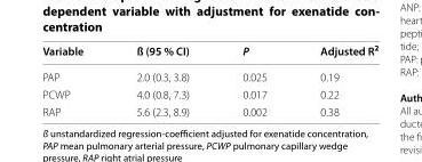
<table><thead><tr><td>Variable</td><td>ß (95 % CI)</td><td>P</td><td>Adjusted R<sup>2</sup></td></tr></thead><tbody><tr><td>PAP</td><td>2.0 (0.3, 3.8)</td><td>0.025</td><td>0.19</td></tr><tr><td>PCWP</td><td>4.0 (0.8, 7.3)</td><td>0.017</td><td>0.22</td></tr><tr><td>RAP</td><td>5.6 (2.3, 8.9)</td><td>0.002</td><td>0.38</td></tr></tbody></table>